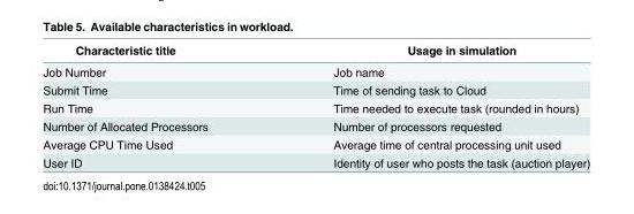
<table><thead><tr><td>Characteristic title</td><td>Usage in simulation</td></tr></thead><tbody><tr><td>Job Number</td><td>Job name</td></tr><tr><td>Submit Time</td><td>Time of sending task to Cloud</td></tr><tr><td>Run Time</td><td>Time needed to execute task (rounded in hours)</td></tr><tr><td>Number of Allocated Processors</td><td>Number of processors requested</td></tr><tr><td>Average CPU Time Used</td><td>Average time of central processing unit used</td></tr><tr><td>User ID</td><td>Identity of user who posts the task (auction player)</td></tr></tbody></table>